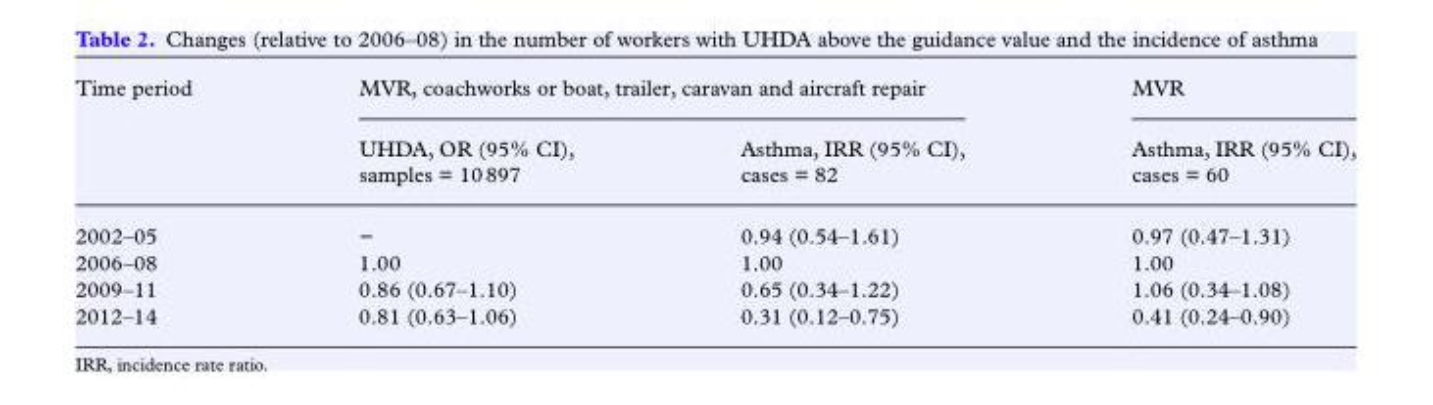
<table><thead><tr><td rowspan="2">Time period</td><td colspan="2">MVR, coachworks or boat, trailer, caravan and aircraft repair</td><td rowspan="2">MVR Asthma, IRR (95% CI), cases = 60</td></tr><tr><td>UHDA, OR (95% CI), samples = 10 897</td><td>Asthma, IRR (95% CI), cases = 82</td></tr></thead><tbody><tr><td>2002–05</td><td>−</td><td>0.94 (0.54–1.61)</td><td>0.97 (0.47–1.31)</td></tr><tr><td>2006–08</td><td>1.00</td><td>1.00</td><td>1.00</td></tr><tr><td>2009–11</td><td>0.86 (0.67–1.10)</td><td>0.65 (0.34–1.22)</td><td>1.06 (0.34–1.08)</td></tr><tr><td>2012–14</td><td>0.81 (0.63–1.06)</td><td>0.31 (0.12–0.75)</td><td>0.41 (0.24–0.90)</td></tr></tbody></table>